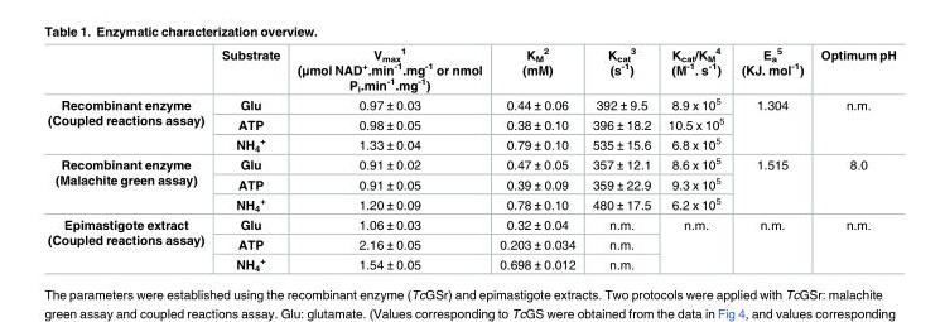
<table><thead><tr><td></td><td>Substrate</td><td>V<sub>max</sub> <sup>1</sup> (μmol NAD<sup>+</sup>.min<sup>-1</sup>.mg<sup>-1</sup> or nmol P<sub>i</sub>.min<sup>-1</sup>.mg<sup>-1</sup>)</td><td>K<sub>M</sub> <sup>2</sup> (mM)</td><td>K<sub>cat</sub> <sup>3</sup> (s<sup>-1</sup>)</td><td>K<sub>cat</sub>/K<sub>M</sub> <sup>4</sup> (M<sup>-1</sup>. s<sup>-1</sup>)</td><td>E<sub>a</sub> <sup>5</sup> (KJ. mol<sup>-1</sup>)</td><td>Optimum pH</td></tr></thead><tbody><tr><td rowspan="3">Recombinant enzyme (Coupled reactions assay)</td><td>Glu</td><td>0.97 ± 0.03</td><td>0.44 ± 0.06</td><td>392 ± 9.5</td><td>8.9 x 10<sup>5</sup></td><td rowspan="3">1.304</td><td rowspan="3">n.m.</td></tr><tr><td>ATP</td><td>0.98 ± 0.05</td><td>0.38 ± 0.10</td><td>396 ± 18.2</td><td>10.5 x 10<sup>5</sup></td></tr><tr><td>NH<sub>4</sub> <sup>+</sup></td><td>1.33 ± 0.04</td><td>0.79 ± 0.10</td><td>535 ± 15.6</td><td>6.8 x 10<sup>5</sup></td></tr><tr><td rowspan="3">Recombinant enzyme (Malachite green assay)</td><td>Glu</td><td>0.91 ± 0.02</td><td>0.47 ± 0.05</td><td>357 ± 12.1</td><td>8.6 x 10<sup>5</sup></td><td rowspan="3">1.515</td><td rowspan="3">8.0</td></tr><tr><td>ATP</td><td>0.91 ± 0.05</td><td>0.39 ± 0.09</td><td>359 ± 22.9</td><td>9.3 x 10<sup>5</sup></td></tr><tr><td>NH<sub>4</sub> <sup>+</sup></td><td>1.20 ± 0.09</td><td>0.78 ± 0.10</td><td>480 ± 17.5</td><td>6.2 x 10<sup>5</sup></td></tr><tr><td rowspan="3">Epimastigote extract (Coupled reactions assay)</td><td>Glu</td><td>1.06 ± 0.03</td><td>0.32 ± 0.04</td><td>n.m.</td><td rowspan="3">n.m.</td><td rowspan="3">n.m.</td><td rowspan="3">n.m.</td></tr><tr><td>ATP</td><td>2.16 ± 0.05</td><td>0.203 ± 0.034</td><td>n.m.</td></tr><tr><td>NH<sub>4</sub> <sup>+</sup></td><td>1.54 ± 0.05</td><td>0.698 ± 0.012</td><td>n.m.</td></tr></tbody></table>